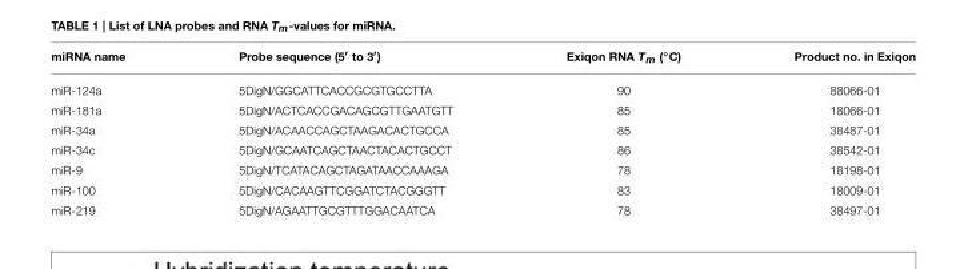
<table><thead><tr><td>miRNA name</td><td>Probe sequence (5′ to 3′)</td><td>Exiqon RNA Tm (◦C)</td><td>Product no. in Exiqon</td></tr></thead><tbody><tr><td>miR-124a</td><td>5DigN/GGCATTCACCGCGTGCCTTA</td><td>90</td><td>88066-01</td></tr><tr><td>miR-181a</td><td>5DigN/ACTCACCGACAGCGTTGAATGTT</td><td>85</td><td>18066-01</td></tr><tr><td>miR-34a</td><td>5DigN/ACAACCAGCTAAGACACTGCCA</td><td>85</td><td>38487-01</td></tr><tr><td>miR-34c</td><td>5DigN/GCAATCAGCTAACTACACTGCCT</td><td>86</td><td>38542-01</td></tr><tr><td>miR-9</td><td>5DigN/TCATACAGCTAGATAACCAAAGA</td><td>78</td><td>18198-01</td></tr><tr><td>miR-100</td><td>5DigN/CACAAGTTCGGATCTACGGGTT</td><td>83</td><td>18009-01</td></tr><tr><td>miR-219</td><td>5DigN/AGAATTGCGTTTGGACAATCA</td><td>78</td><td>38497-01</td></tr></tbody></table>